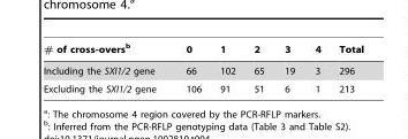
<table><thead><tr><td># of cross-overs<sup>b</sup></td><td>0</td><td>1</td><td>2</td><td>3</td><td>4</td><td>Total</td></tr></thead><tbody><tr><td>Including the SXI1/2 gene</td><td>66</td><td>102</td><td>65</td><td>19</td><td>3</td><td>296</td></tr><tr><td>Excluding the SXI1/2 gene</td><td>106</td><td>91</td><td>51</td><td>6</td><td>1</td><td>213</td></tr></tbody></table>